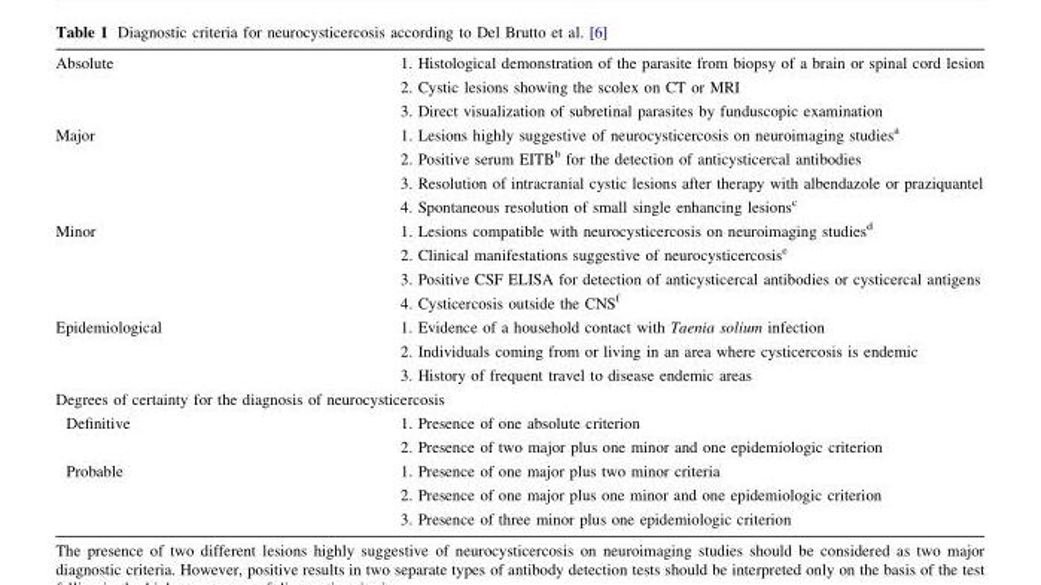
<table><tbody><tr><td>Absolute</td><td>1. Histological demonstration of the parasite from biopsy of a brain or spinal cord lesion 2. Cystic lesions showing the scolex on CT or MRI 3. Direct visualization of subretinal parasites by funduscopic examination</td></tr><tr><td>Major</td><td>1. Lesions highly suggestive of neurocysticercosis on neuroimaging studies<sup>a</sup> 2. Positive serum EITB<sup>b</sup> for the detection of anticysticercal antibodies 3. Resolution of intracranial cystic lesions after therapy with albendazole or praziquantel 4. Spontaneous resolution of small single enhancing lesions<sup>c</sup></td></tr><tr><td>Minor</td><td>1. Lesions compatible with neurocysticercosis on neuroimaging studies<sup>d</sup> 2. Clinical manifestations suggestive of neurocysticercosis<sup>e</sup> 3. Positive CSF ELISA for detection of anticysticercal antibodies or cysticercal antigens 4. Cysticercosis outside the CNS<sup>f</sup></td></tr><tr><td>Epidemiological</td><td>1. Evidence of a household contact with Taenia solium infection 2. Individuals coming from or living in an area where cysticercosis is endemic 3. History of frequent travel to disease endemic areas</td></tr><tr><td colspan="2">Degrees of certainty for the diagnosis of neurocysticercosis</td></tr><tr><td>Definitive</td><td>1. Presence of one absolute criterion 2. Presence of two major plus one minor and one epidemiologic criterion</td></tr><tr><td>Probable</td><td>1. Presence of one major plus two minor criteria 2. Presence of one major plus one minor and one epidemiologic criterion 3. Presence of three minor plus one epidemiologic criterion</td></tr></tbody></table>